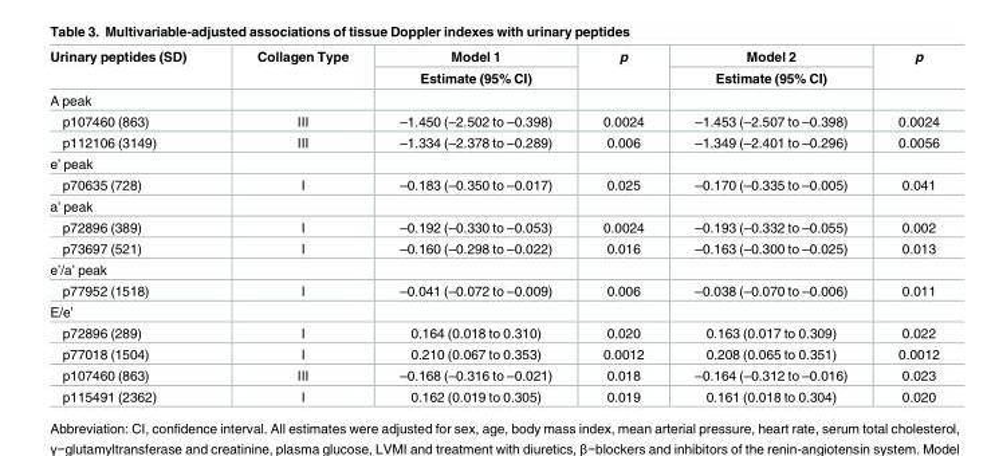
<table><thead><tr><td rowspan="2">Urinary peptides (SD)</td><td rowspan="2">Collagen Type</td><td rowspan="2">Model 1 Estimate (95% CI)</td><td rowspan="2">p</td><td rowspan="2">Model 2 Estimate (95% CI)</td><td rowspan="2">p</td></tr><tr></tr></thead><tbody><tr><td colspan="6">A peak</td></tr><tr><td>p107460 (863)</td><td>III</td><td>–1.450 (–2.502 to –0.398)</td><td>0.0024</td><td>–1.453 (–2.507 to –0.398)</td><td>0.0024</td></tr><tr><td>p112106 (3149)</td><td>III</td><td>–1.334 (–2.378 to –0.289)</td><td>0.006</td><td>–1.349 (–2.401 to –0.296)</td><td>0.0056</td></tr><tr><td colspan="6">e’ peak</td></tr><tr><td>p70635 (728)</td><td>I</td><td>–0.183 (–0.350 to –0.017)</td><td>0.025</td><td>–0.170 (–0.335 to –0.005)</td><td>0.041</td></tr><tr><td colspan="6">a’ peak</td></tr><tr><td>p72896 (389)</td><td>I</td><td>–0.192 (–0.330 to –0.053)</td><td>0.0024</td><td>–0.193 (–0.332 to –0.055)</td><td>0.002</td></tr><tr><td>p73697 (521)</td><td>I</td><td>–0.160 (–0.298 to –0.022)</td><td>0.016</td><td>–0.163 (–0.300 to –0.025)</td><td>0.013</td></tr><tr><td colspan="6">e’/a’ peak</td></tr><tr><td>p77952 (1518)</td><td>I</td><td>–0.041 (–0.072 to –0.009)</td><td>0.006</td><td>–0.038 (–0.070 to –0.006)</td><td>0.011</td></tr><tr><td colspan="6">E/e’</td></tr><tr><td>p72896 (289)</td><td>I</td><td>0.164 (0.018 to 0.310)</td><td>0.020</td><td>0.163 (0.017 to 0.309)</td><td>0.022</td></tr><tr><td>p77018 (1504)</td><td>I</td><td>0.210 (0.067 to 0.353)</td><td>0.0012</td><td>0.208 (0.065 to 0.351)</td><td>0.0012</td></tr><tr><td>p107460 (863)</td><td>III</td><td>–0.168 (–0.316 to –0.021)</td><td>0.018</td><td>–0.164 (–0.312 to –0.016)</td><td>0.023</td></tr><tr><td>p115491 (2362)</td><td>I</td><td>0.162 (0.019 to 0.305)</td><td>0.019</td><td>0.161 (0.018 to 0.304)</td><td>0.020</td></tr></tbody></table>